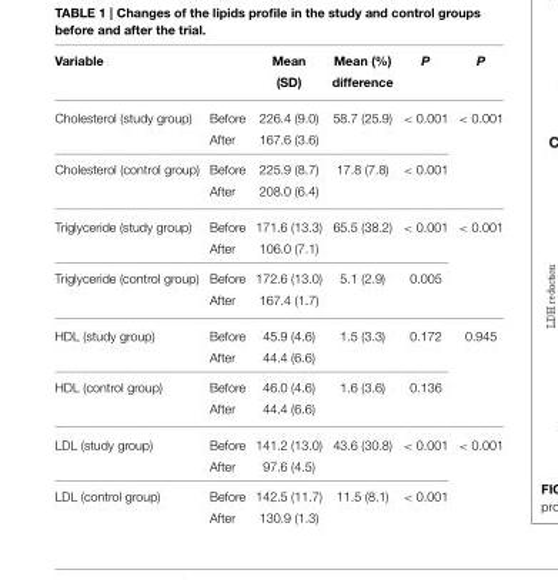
<table><thead><tr><td>Variable</td><td></td><td>Mean (SD)</td><td>Mean (%) difference</td><td>P</td><td>P</td></tr></thead><tbody><tr><td rowspan="2">Cholesterol (study group)</td><td>Before</td><td>226.4 (9.0)</td><td>58.7 (25.9)</td><td>&lt; 0.001</td><td>&lt; 0.001</td></tr><tr><td>After</td><td>167.6 (3.6)</td><td></td><td></td><td></td></tr><tr><td rowspan="2">Cholesterol (control group)</td><td>Before</td><td>225.9 (8.7)</td><td>17.8 (7.8)</td><td>&lt; 0.001</td><td></td></tr><tr><td>After</td><td>208.0 (6.4)</td><td></td><td></td><td></td></tr><tr><td rowspan="2">Triglyceride (study group)</td><td>Before</td><td>171.6 (13.3)</td><td>65.5 (38.2)</td><td>&lt; 0.001</td><td>&lt; 0.001</td></tr><tr><td>After</td><td>106.0 (7.1)</td><td></td><td></td><td></td></tr><tr><td rowspan="2">Triglyceride (control group)</td><td>Before</td><td>172.6 (13.0)</td><td>5.1 (2.9)</td><td>0.005</td><td></td></tr><tr><td>After</td><td>167.4 (1.7)</td><td></td><td></td><td></td></tr><tr><td rowspan="2">HDL (study group)</td><td>Before</td><td>45.9 (4.6)</td><td>1.5 (3.3)</td><td>0.172</td><td>0.945</td></tr><tr><td>After</td><td>44.4 (6.6)</td><td></td><td></td><td></td></tr><tr><td rowspan="2">HDL (control group)</td><td>Before</td><td>46.0 (4.6)</td><td>1.6 (3.6)</td><td>0.136</td><td></td></tr><tr><td>After</td><td>44.4 (6.6)</td><td></td><td></td><td></td></tr><tr><td rowspan="2">LDL (study group)</td><td>Before</td><td>141.2 (13.0)</td><td>43.6 (30.8)</td><td>&lt; 0.001</td><td>&lt; 0.001</td></tr><tr><td>After</td><td>97.6 (4.5)</td><td></td><td></td><td></td></tr><tr><td rowspan="2">LDL (control group)</td><td>Before</td><td>142.5 (11.7)</td><td>11.5 (8.1)</td><td>&lt; 0.001</td><td></td></tr><tr><td>After</td><td>130.9 (1.3)</td><td></td><td></td><td></td></tr></tbody></table>